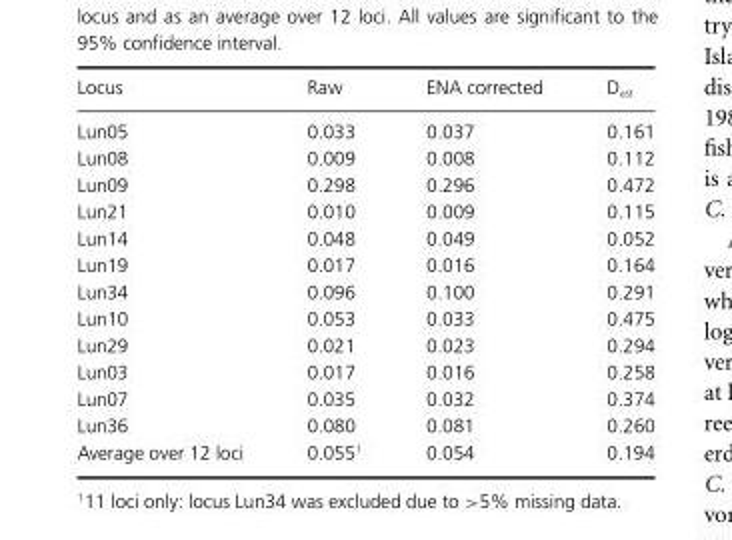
<table><thead><tr><td>Locus</td><td>Raw</td><td>ENA corrected</td><td>D<sub>est</sub></td></tr></thead><tbody><tr><td>Lun05</td><td>0.033</td><td>0.037</td><td>0.161</td></tr><tr><td>Lun08</td><td>0.009</td><td>0.008</td><td>0.112</td></tr><tr><td>Lun09</td><td>0.298</td><td>0.296</td><td>0.472</td></tr><tr><td>Lun21</td><td>0.010</td><td>0.009</td><td>0.115</td></tr><tr><td>Lun14</td><td>0.048</td><td>0.049</td><td>0.052</td></tr><tr><td>Lun19</td><td>0.017</td><td>0.016</td><td>0.164</td></tr><tr><td>Lun34</td><td>0.096</td><td>0.100</td><td>0.291</td></tr><tr><td>Lun10</td><td>0.053</td><td>0.033</td><td>0.475</td></tr><tr><td>Lun29</td><td>0.021</td><td>0.023</td><td>0.294</td></tr><tr><td>Lun03</td><td>0.017</td><td>0.016</td><td>0.258</td></tr><tr><td>Lun07</td><td>0.035</td><td>0.032</td><td>0.374</td></tr><tr><td>Lun36</td><td>0.080</td><td>0.081</td><td>0.260</td></tr><tr><td>Average over 12 loci</td><td>0.055<sup>1</sup></td><td>0.054</td><td>0.194</td></tr></tbody></table>